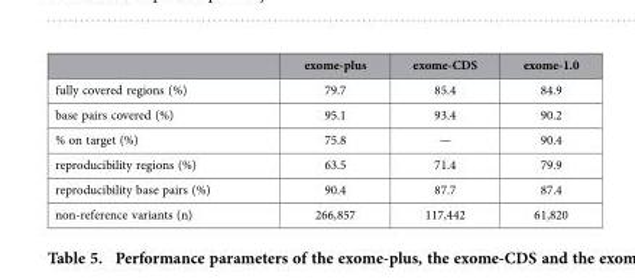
<table><thead><tr><td></td><td>exome-plus</td><td>exome-CDS</td><td>exome-1.0</td></tr></thead><tbody><tr><td>fully covered regions (%)</td><td>79.7</td><td>85.4</td><td>84.9</td></tr><tr><td>base pairs covered (%)</td><td>95.1</td><td>93.4</td><td>90.2</td></tr><tr><td>% on target (%)</td><td>75.8</td><td>—</td><td>90.4</td></tr><tr><td>reproducibility regions (%)</td><td>63.5</td><td>71.4</td><td>79.9</td></tr><tr><td>reproducibility base pairs (%)</td><td>90.4</td><td>87.7</td><td>87.4</td></tr><tr><td>non-reference variants (n)</td><td>266,857</td><td>117,442</td><td>61,820</td></tr></tbody></table>